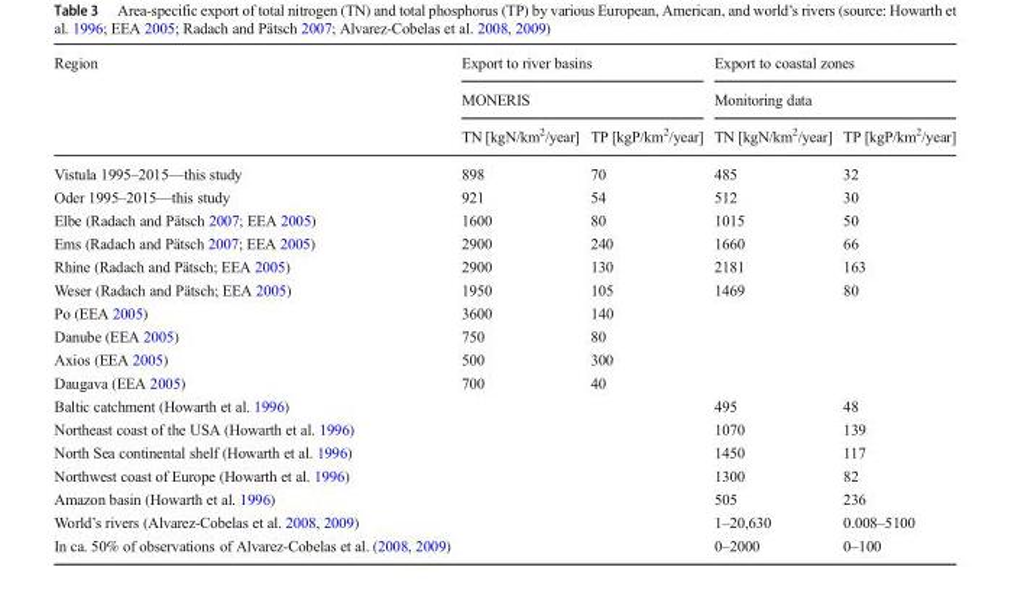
<table><thead><tr><td rowspan="3">Region</td><td rowspan="2" colspan="2">Export to river basins MONERIS</td><td rowspan="2" colspan="2">Export to coastal zones Monitoring data</td></tr><tr></tr><tr><td>TN [kgN/km<sup>2</sup>/year]</td><td>TP [kgP/km<sup>2</sup>/year]</td><td>TN [kgN/km<sup>2</sup>/year]</td><td>TP [kgP/km<sup>2</sup>/year]</td></tr></thead><tbody><tr><td>Vistula 1995–2015—this study</td><td>898</td><td>70</td><td>485</td><td>32</td></tr><tr><td>Oder 1995–2015—this study</td><td>921</td><td>54</td><td>512</td><td>30</td></tr><tr><td>Elbe (Radach and Pätsch 2007; EEA 2005)</td><td>1600</td><td>80</td><td>1015</td><td>50</td></tr><tr><td>Ems (Radach and Pätsch 2007; EEA 2005)</td><td>2900</td><td>240</td><td>1660</td><td>66</td></tr><tr><td>Rhine (Radach and Pätsch; EEA 2005)</td><td>2900</td><td>130</td><td>2181</td><td>163</td></tr><tr><td>Weser (Radach and Pätsch; EEA 2005)</td><td>1950</td><td>105</td><td>1469</td><td>80</td></tr><tr><td>Po (EEA 2005)</td><td>3600</td><td>140</td><td></td><td></td></tr><tr><td>Danube (EEA 2005)</td><td>750</td><td>80</td><td></td><td></td></tr><tr><td>Axios (EEA 2005)</td><td>500</td><td>300</td><td></td><td></td></tr><tr><td>Daugava (EEA 2005)</td><td>700</td><td>40</td><td></td><td></td></tr><tr><td>Baltic catchment (Howarth et al. 1996)</td><td></td><td></td><td>495</td><td>48</td></tr><tr><td>Northeast coast of the USA (Howarth et al. 1996)</td><td></td><td></td><td>1070</td><td>139</td></tr><tr><td>North Sea continental shelf (Howarth et al. 1996)</td><td></td><td></td><td>1450</td><td>117</td></tr><tr><td>Northwest coast of Europe (Howarth et al. 1996)</td><td></td><td></td><td>1300</td><td>82</td></tr><tr><td>Amazon basin (Howarth et al. 1996)</td><td></td><td></td><td>505</td><td>236</td></tr><tr><td>World’s rivers (Alvarez-Cobelas et al. 2008, 2009)</td><td></td><td></td><td>1–20,630</td><td>0.008–5100</td></tr><tr><td>In ca. 50% of observations of Alvarez-Cobelas et al. (2008, 2009)</td><td></td><td></td><td>0–2000</td><td>0–100</td></tr></tbody></table>